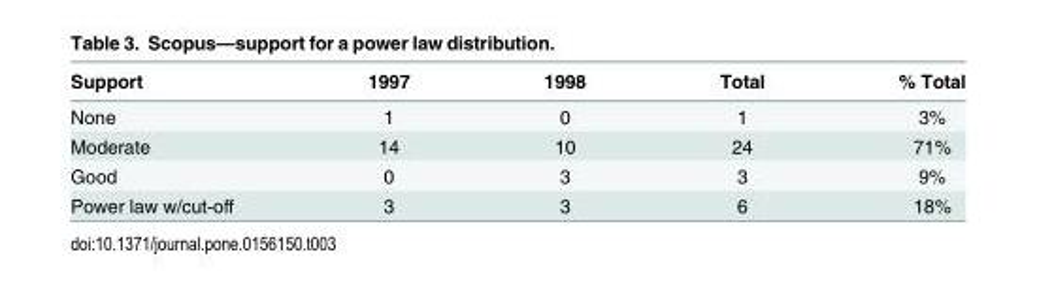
<table><thead><tr><td>Support</td><td>1997</td><td>1998</td><td>Total</td><td>% Total</td></tr></thead><tbody><tr><td>None</td><td>1</td><td>0</td><td>1</td><td>3%</td></tr><tr><td>Moderate</td><td>14</td><td>10</td><td>24</td><td>71%</td></tr><tr><td>Good</td><td>0</td><td>3</td><td>3</td><td>9%</td></tr><tr><td>Power law w/cut-off</td><td>3</td><td>3</td><td>6</td><td>18%</td></tr></tbody></table>